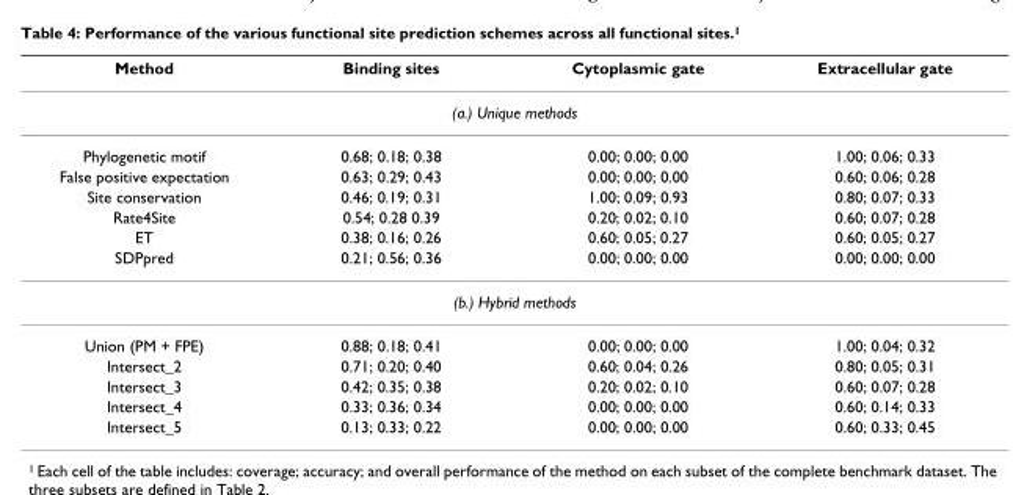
<table><thead><tr><td>Method</td><td>Binding sites</td><td>Cytoplasmic gate</td><td>Extracellular gate</td></tr></thead><tbody><tr><td colspan="4">(a.) Unique methods</td></tr><tr><td>Phylogenetic motif</td><td>0.68; 0.18; 0.38</td><td>0.00; 0.00; 0.00</td><td>1.00; 0.06; 0.33</td></tr><tr><td>False positive expectation</td><td>0.63; 0.29; 0.43</td><td>0.00; 0.00; 0.00</td><td>0.60; 0.06; 0.28</td></tr><tr><td>Site conservation</td><td>0.46; 0.19; 0.31</td><td>1.00; 0.09; 0.93</td><td>0.80; 0.07; 0.33</td></tr><tr><td>Rate4Site</td><td>0.54; 0.28 0.39</td><td>0.20; 0.02; 0.10</td><td>0.60; 0.07; 0.28</td></tr><tr><td>ET</td><td>0.38; 0.16; 0.26</td><td>0.60; 0.05; 0.27</td><td>0.60; 0.05; 0.27</td></tr><tr><td>SDPpred</td><td>0.21; 0.56; 0.36</td><td>0.00; 0.00; 0.00</td><td>0.00; 0.00; 0.00</td></tr><tr><td colspan="4">(b.) Hybrid methods</td></tr><tr><td>Union (PM + FPE)</td><td>0.88; 0.18; 0.41</td><td>0.00; 0.00; 0.00</td><td>1.00; 0.04; 0.32</td></tr><tr><td>Intersect_2</td><td>0.71; 0.20; 0.40</td><td>0.60; 0.04; 0.26</td><td>0.80; 0.05; 0.31</td></tr><tr><td>Intersect_3</td><td>0.42; 0.35; 0.38</td><td>0.20; 0.02; 0.10</td><td>0.60; 0.07; 0.28</td></tr><tr><td>Intersect_4</td><td>0.33; 0.36; 0.34</td><td>0.00; 0.00; 0.00</td><td>0.60; 0.14; 0.33</td></tr><tr><td>Intersect_5</td><td>0.13; 0.33; 0.22</td><td>0.00; 0.00; 0.00</td><td>0.60; 0.33; 0.45</td></tr></tbody></table>